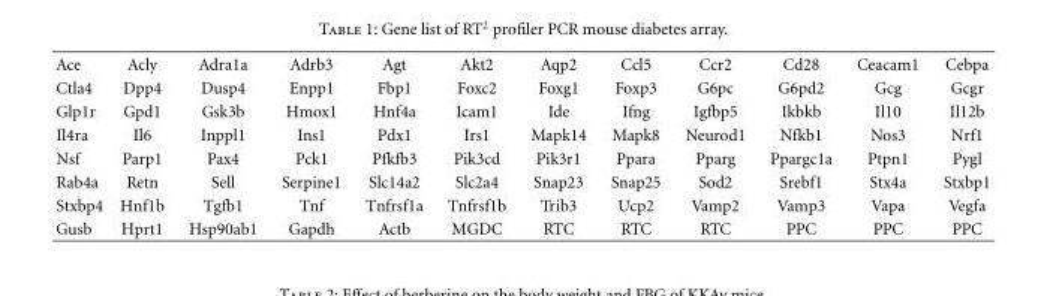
<table><tbody><tr><td>Ace</td><td>Acly</td><td>Adra1a</td><td>Adrb3</td><td>Agt</td><td>Akt2</td><td>Aqp2</td><td>Ccl5</td><td>Ccr2</td><td>Cd28</td><td>Ceacam1</td><td>Cebpa</td></tr><tr><td>Ctla4</td><td>Dpp4</td><td>Dusp4</td><td>Enpp1</td><td>Fbp1</td><td>Foxc2</td><td>Foxg1</td><td>Foxp3</td><td>G6pc</td><td>G6pd2</td><td>Gcg</td><td>Gcgr</td></tr><tr><td>Glp1r</td><td>Gpd1</td><td>Gsk3b</td><td>Hmox1</td><td>Hnf4a</td><td>Icam1</td><td>Ide</td><td>Ifng</td><td>Igfbp5</td><td>Ikbkb</td><td>Il10</td><td>Il12b</td></tr><tr><td>Il4ra</td><td>Il6</td><td>Inppl1</td><td>Ins1</td><td>Pdx1</td><td>Irs1</td><td>Mapk14</td><td>Mapk8</td><td>Neurod1</td><td>Nfkb1</td><td>Nos3</td><td>Nrf1</td></tr><tr><td>Nsf</td><td>Parp1</td><td>Pax4</td><td>Pck1</td><td>Pfkfb3</td><td>Pik3cd</td><td>Pik3r1</td><td>Ppara</td><td>Pparg</td><td>Ppargc1a</td><td>Ptpn1</td><td>Pygl</td></tr><tr><td>Rab4a</td><td>Retn</td><td>Sell</td><td>Serpine1</td><td>Slc14a2</td><td>Slc2a4</td><td>Snap23</td><td>Snap25</td><td>Sod2</td><td>Srebf1</td><td>Stx4a</td><td>Stxbp1</td></tr><tr><td>Stxbp4</td><td>Hnf1b</td><td>Tgfb1</td><td>Tnf</td><td>Tnfrsf1a</td><td>Tnfrsf1b</td><td>Trib3</td><td>Ucp2</td><td>Vamp2</td><td>Vamp3</td><td>Vapa</td><td>Vegfa</td></tr><tr><td>Gusb</td><td>Hprt1</td><td>Hsp90ab1</td><td>Gapdh</td><td>Actb</td><td>MGDC</td><td>RTC</td><td>RTC</td><td>RTC</td><td>PPC</td><td>PPC</td><td>PPC</td></tr></tbody></table>